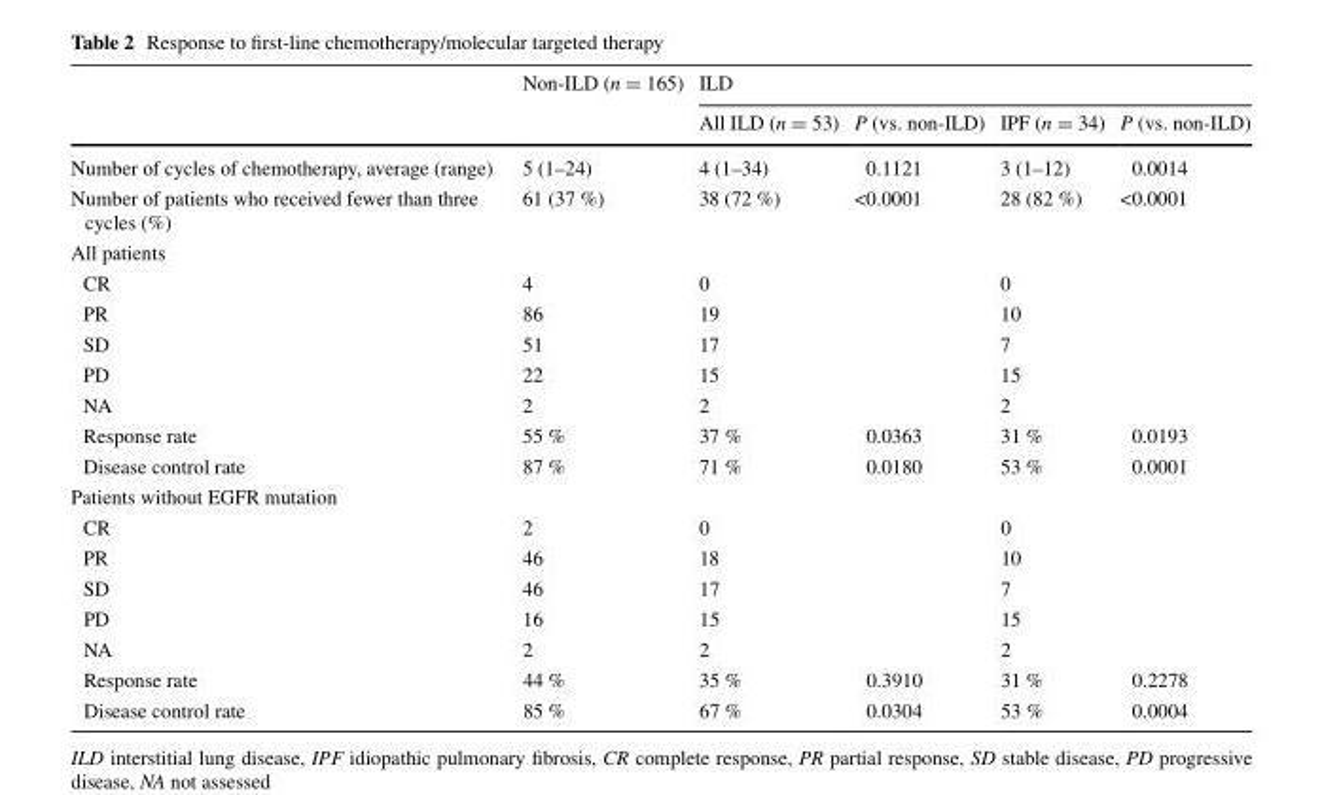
<table><thead><tr><td rowspan="2"></td><td rowspan="2">Non-ILD (n = 165)</td><td colspan="4">ILD</td></tr><tr><td>All ILD (n = 53)</td><td>P (vs. non-ILD)</td><td>IPF (n = 34)</td><td>P (vs. non-ILD)</td></tr></thead><tbody><tr><td>Number of cycles of chemotherapy, average (range)</td><td>5 (1–24)</td><td>4 (1–34)</td><td>0.1121</td><td>3 (1–12)</td><td>0.0014</td></tr><tr><td>Number of patients who received fewer than three cycles (%)</td><td>61 (37 %)</td><td>38 (72 %)</td><td>&lt;0.0001</td><td>28 (82 %)</td><td>&lt;0.0001</td></tr><tr><td colspan="6">All patients</td></tr><tr><td>CR</td><td>4</td><td>0</td><td></td><td>0</td><td></td></tr><tr><td>PR</td><td>86</td><td>19</td><td></td><td>10</td><td></td></tr><tr><td>SD</td><td>51</td><td>17</td><td></td><td>7</td><td></td></tr><tr><td>PD</td><td>22</td><td>15</td><td></td><td>15</td><td></td></tr><tr><td>NA</td><td>2</td><td>2</td><td></td><td>2</td><td></td></tr><tr><td>Response rate</td><td>55 %</td><td>37 %</td><td>0.0363</td><td>31 %</td><td>0.0193</td></tr><tr><td>Disease control rate</td><td>87 %</td><td>71 %</td><td>0.0180</td><td>53 %</td><td>0.0001</td></tr><tr><td colspan="6">Patients without EGFR mutation</td></tr><tr><td>CR</td><td>2</td><td>0</td><td></td><td>0</td><td></td></tr><tr><td>PR</td><td>46</td><td>18</td><td></td><td>10</td><td></td></tr><tr><td>SD</td><td>46</td><td>17</td><td></td><td>7</td><td></td></tr><tr><td>PD</td><td>16</td><td>15</td><td></td><td>15</td><td></td></tr><tr><td>NA</td><td>2</td><td>2</td><td></td><td>2</td><td></td></tr><tr><td>Response rate</td><td>44 %</td><td>35 %</td><td>0.3910</td><td>31 %</td><td>0.2278</td></tr><tr><td>Disease control rate</td><td>85 %</td><td>67 %</td><td>0.0304</td><td>53 %</td><td>0.0004</td></tr></tbody></table>